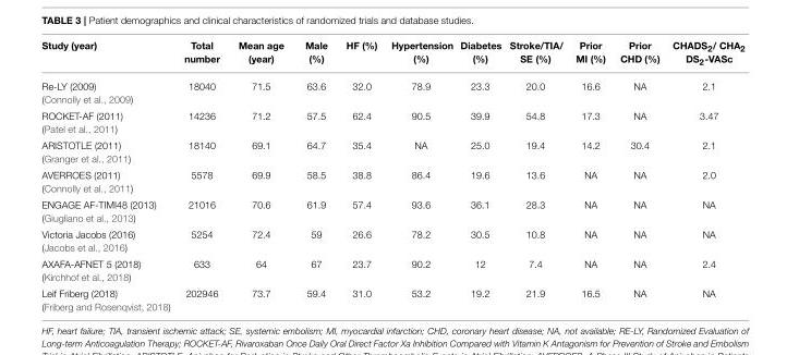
<table><thead><tr><td>Study (year)</td><td>Total number</td><td>Mean age (year)</td><td>Male (%)</td><td>HF (%)</td><td>Hypertension (%)</td><td>Diabetes (%)</td><td>Stroke/TIA/ SE (%)</td><td>Prior MI (%)</td><td>Prior CHD (%)</td><td>CHADS<sub>2</sub>/ CHA<sub>2</sub> DS<sub>2</sub>-VASc</td></tr></thead><tbody><tr><td>Re-LY (2009) (Connolly et al., 2009)</td><td>18040</td><td>71.5</td><td>63.6</td><td>32.0</td><td>78.9</td><td>23.3</td><td>20.0</td><td>16.6</td><td>NA</td><td>2.1</td></tr><tr><td>ROCKET-AF (2011) (Patel et al., 2011)</td><td>14236</td><td>71.2</td><td>57.5</td><td>62.4</td><td>90.5</td><td>39.9</td><td>54.8</td><td>17.3</td><td>NA</td><td>3.47</td></tr><tr><td>ARISTOTLE (2011) (Granger et al., 2011)</td><td>18140</td><td>69.1</td><td>64.7</td><td>35.4</td><td>NA</td><td>25.0</td><td>19.4</td><td>14.2</td><td>30.4</td><td>2.1</td></tr><tr><td>AVERROES (2011) (Connolly et al., 2011)</td><td>5578</td><td>69.9</td><td>58.5</td><td>38.8</td><td>86.4</td><td>19.6</td><td>13.6</td><td>NA</td><td>NA</td><td>2.0</td></tr><tr><td>ENGAGE AF-TIMI48 (2013) (Giugliano et al., 2013)</td><td>21016</td><td>70.6</td><td>61.9</td><td>57.4</td><td>93.6</td><td>36.1</td><td>28.3</td><td>NA</td><td>NA</td><td>NA</td></tr><tr><td>Victoria Jacobs (2016) (Jacobs et al., 2016)</td><td>5254</td><td>72.4</td><td>59</td><td>26.6</td><td>78.2</td><td>30.5</td><td>10.8</td><td>NA</td><td>NA</td><td>NA</td></tr><tr><td>AXAFA-AFNET 5 (2018) (Kirchhof et al., 2018)</td><td>633</td><td>64</td><td>67</td><td>23.7</td><td>90.2</td><td>12</td><td>7.4</td><td>NA</td><td>NA</td><td>2.4</td></tr><tr><td>Leif Friberg (2018) (Friberg and Rosenqvist, 2018)</td><td>202946</td><td>73.7</td><td>59.4</td><td>31.0</td><td>53.2</td><td>19.2</td><td>21.9</td><td>16.5</td><td>NA</td><td>NA</td></tr></tbody></table>